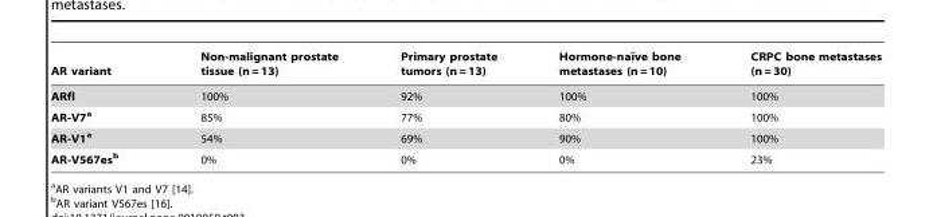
<table><thead><tr><td>AR variant</td><td>Non-malignant prostate tissue (n = 13)</td><td>Primary prostate tumors (n = 13)</td><td>Hormone-naı¨ve bone metastases (n = 10)</td><td>CRPC bone metastases (n = 30)</td></tr></thead><tbody><tr><td>ARfl</td><td>100%</td><td>92%</td><td>100%</td><td>100%</td></tr><tr><td>AR-V7a</td><td>85%</td><td>77%</td><td>80%</td><td>100%</td></tr><tr><td>AR-V1a</td><td>54%</td><td>69%</td><td>90%</td><td>100%</td></tr><tr><td>AR-V567esb</td><td>0%</td><td>0%</td><td>0%</td><td>23%</td></tr></tbody></table>